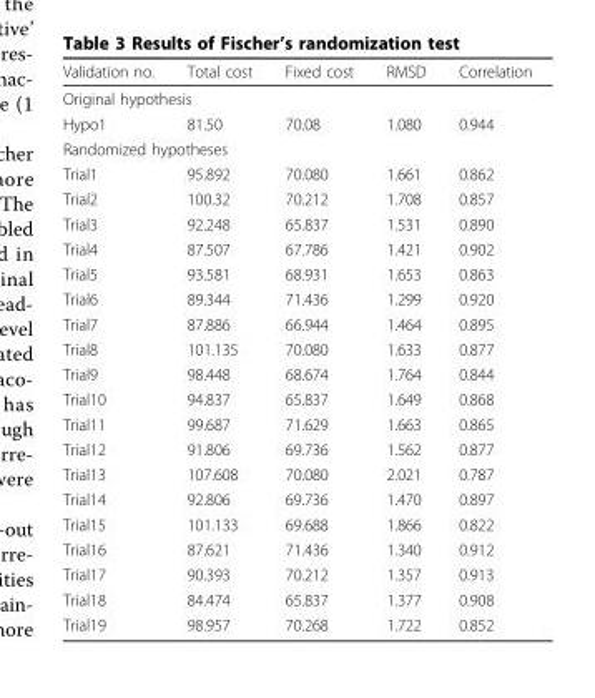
<table><thead><tr><td>Validation no.</td><td>Total cost</td><td>Fixed cost</td><td>RMSD</td><td>Correlation</td></tr></thead><tbody><tr><td colspan="5">Original hypothesis</td></tr><tr><td>Hypo1</td><td>81.50</td><td>70.08</td><td>1.080</td><td>0.944</td></tr><tr><td colspan="5">Randomized hypotheses</td></tr><tr><td>Trial1</td><td>95.892</td><td>70.080</td><td>1.661</td><td>0.862</td></tr><tr><td>Trial2</td><td>100.32</td><td>70.212</td><td>1.708</td><td>0.857</td></tr><tr><td>Trial3</td><td>92.248</td><td>65.837</td><td>1.531</td><td>0.890</td></tr><tr><td>Trial4</td><td>87.507</td><td>67.786</td><td>1.421</td><td>0.902</td></tr><tr><td>Trial5</td><td>93.581</td><td>68.931</td><td>1.653</td><td>0.863</td></tr><tr><td>Trial6</td><td>89.344</td><td>71.436</td><td>1.299</td><td>0.920</td></tr><tr><td>Trial7</td><td>87.886</td><td>66.944</td><td>1.464</td><td>0.895</td></tr><tr><td>Trial8</td><td>101.135</td><td>70.080</td><td>1.633</td><td>0.877</td></tr><tr><td>Trial9</td><td>98.448</td><td>68.674</td><td>1.764</td><td>0.844</td></tr><tr><td>Trial10</td><td>94.837</td><td>65.837</td><td>1.649</td><td>0.868</td></tr><tr><td>Trial11</td><td>99.687</td><td>71.629</td><td>1.663</td><td>0.865</td></tr><tr><td>Trial12</td><td>91.806</td><td>69.736</td><td>1.562</td><td>0.877</td></tr><tr><td>Trial13</td><td>107.608</td><td>70.080</td><td>2.021</td><td>0.787</td></tr><tr><td>Trial14</td><td>92.806</td><td>69.736</td><td>1.470</td><td>0.897</td></tr><tr><td>Trial15</td><td>101.133</td><td>69.688</td><td>1.866</td><td>0.822</td></tr><tr><td>Trial16</td><td>87.621</td><td>71.436</td><td>1.340</td><td>0.912</td></tr><tr><td>Trial17</td><td>90.393</td><td>70.212</td><td>1.357</td><td>0.913</td></tr><tr><td>Trial18</td><td>84.474</td><td>65.837</td><td>1.377</td><td>0.908</td></tr><tr><td>Trial19</td><td>98.957</td><td>70.268</td><td>1.722</td><td>0.852</td></tr></tbody></table>